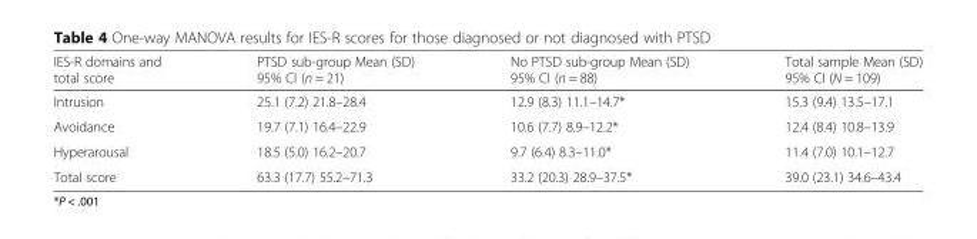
<table><thead><tr><td>IES-R domains and total score</td><td>PTSD sub-group Mean (SD) 95% CI (n = 21)</td><td>No PTSD sub-group Mean (SD) 95% CI (n = 88)</td><td>Total sample Mean (SD) 95% CI (N = 109)</td></tr></thead><tbody><tr><td>Intrusion</td><td>25.1 (7.2) 21.8–28.4</td><td>12.9 (8.3) 11.1–14.7*</td><td>15.3 (9.4) 13.5–17.1</td></tr><tr><td>Avoidance</td><td>19.7 (7.1) 16.4–22.9</td><td>10.6 (7.7) 8.9–12.2*</td><td>12.4 (8.4) 10.8–13.9</td></tr><tr><td>Hyperarousal</td><td>18.5 (5.0) 16.2–20.7</td><td>9.7 (6.4) 8.3–11.0*</td><td>11.4 (7.0) 10.1–12.7</td></tr><tr><td>Total score</td><td>63.3 (17.7) 55.2–71.3</td><td>33.2 (20.3) 28.9–37.5*</td><td>39.0 (23.1) 34.6–43.4</td></tr></tbody></table>